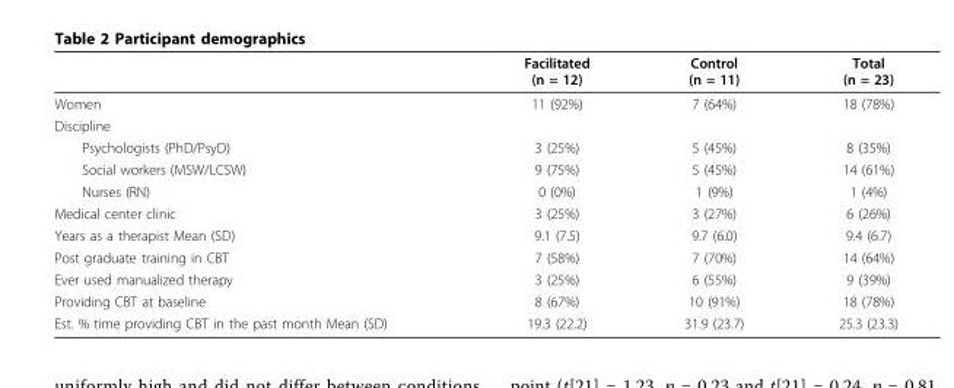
<table><thead><tr><td></td><td>Facilitated (n = 12)</td><td>Control (n = 11)</td><td>Total (n = 23)</td></tr></thead><tbody><tr><td>Women</td><td>11 (92%)</td><td>7 (64%)</td><td>18 (78%)</td></tr><tr><td colspan="4">Discipline</td></tr><tr><td>Psychologists (PhD/PsyD)</td><td>3 (25%)</td><td>5 (45%)</td><td>8 (35%)</td></tr><tr><td>Social workers (MSW/LCSW)</td><td>9 (75%)</td><td>5 (45%)</td><td>14 (61%)</td></tr><tr><td>Nurses (RN)</td><td>0 (0%)</td><td>1 (9%)</td><td>1 (4%)</td></tr><tr><td>Medical center clinic</td><td>3 (25%)</td><td>3 (27%)</td><td>6 (26%)</td></tr><tr><td>Years as a therapist Mean (SD)</td><td>9.1 (7.5)</td><td>9.7 (6.0)</td><td>9.4 (6.7)</td></tr><tr><td>Post graduate training in CBT</td><td>7 (58%)</td><td>7 (70%)</td><td>14 (64%)</td></tr><tr><td>Ever used manualized therapy</td><td>3 (25%)</td><td>6 (55%)</td><td>9 (39%)</td></tr><tr><td>Providing CBT at baseline</td><td>8 (67%)</td><td>10 (91%)</td><td>18 (78%)</td></tr><tr><td>Est. % time providing CBT in the past month Mean (SD)</td><td>19.3 (22.2)</td><td>31.9 (23.7)</td><td>25.3 (23.3)</td></tr></tbody></table>